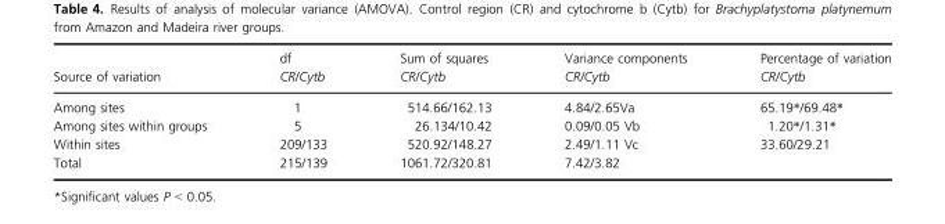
<table><thead><tr><td>Source of variation</td><td>df CR/Cytb</td><td>Sum of squares CR/Cytb</td><td>Variance components CR/Cytb</td><td>Percentage of variation CR/Cytb</td></tr></thead><tbody><tr><td>Among sites</td><td>1</td><td>514.66/162.13</td><td>4.84/2.65Va</td><td>65.19*/69.48*</td></tr><tr><td>Among sites within groups</td><td>5</td><td>26.134/10.42</td><td>0.09/0.05 Vb</td><td>1.20*/1.31*</td></tr><tr><td>Within sites</td><td>209/133</td><td>520.92/148.27</td><td>2.49/1.11 Vc</td><td>33.60/29.21</td></tr><tr><td>Total</td><td>215/139</td><td>1061.72/320.81</td><td>7.42/3.82</td><td></td></tr></tbody></table>